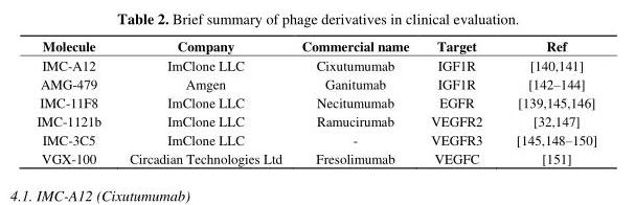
<table><thead><tr><td>Molecule</td><td>Company</td><td>Commercial name</td><td>Target</td><td>Ref</td></tr></thead><tbody><tr><td>IMC-A12</td><td>ImClone LLC</td><td>Cixutumumab</td><td>IGF1R</td><td>[140,141]</td></tr><tr><td>AMG-479</td><td>Amgen</td><td>Ganitumab</td><td>IGF1R</td><td>[142–144]</td></tr><tr><td>IMC-11F8</td><td>ImClone LLC</td><td>Necitumumab</td><td>EGFR</td><td>[139,145,146]</td></tr><tr><td>IMC-1121b</td><td>ImClone LLC</td><td>Ramucirumab</td><td>VEGFR2</td><td>[32,147]</td></tr><tr><td>IMC-3C5</td><td>ImClone LLC</td><td>-</td><td>VEGFR3</td><td>[145,148–150]</td></tr><tr><td>VGX-100</td><td>Circadian Technologies Ltd</td><td>Fresolimumab</td><td>VEGFC</td><td>[151]</td></tr></tbody></table>